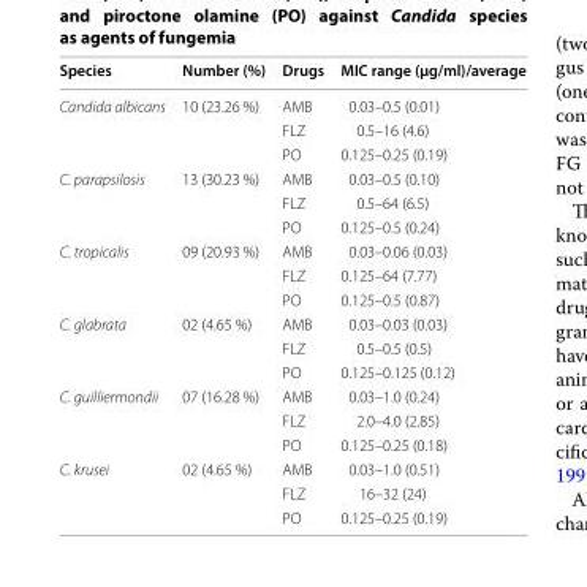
<table><thead><tr><td>Species</td><td>Number (%)</td><td>Drugs</td><td>MIC range (μg/ml)/average</td></tr></thead><tbody><tr><td rowspan="3">Candida albicans</td><td rowspan="3">10 (23.26 %)</td><td>AMB</td><td>0.03–0.5 (0.01)</td></tr><tr><td>FLZ</td><td>0.5–16 (4.6)</td></tr><tr><td>PO</td><td>0.125–0.25 (0.19)</td></tr><tr><td rowspan="3">C. parapsilosis</td><td rowspan="3">13 (30.23 %)</td><td>AMB</td><td>0.03–0.5 (0.10)</td></tr><tr><td>FLZ</td><td>0.5–64 (6.5)</td></tr><tr><td>PO</td><td>0.125–0.5 (0.24)</td></tr><tr><td rowspan="3">C. tropicalis</td><td rowspan="3">09 (20.93 %)</td><td>AMB</td><td>0.03–0.06 (0.03)</td></tr><tr><td>FLZ</td><td>0.125–64 (7.77)</td></tr><tr><td>PO</td><td>0.125–0.5 (0.87)</td></tr><tr><td rowspan="3">C. glabrata</td><td rowspan="3">02 (4.65 %)</td><td>AMB</td><td>0.03–0.03 (0.03)</td></tr><tr><td>FLZ</td><td>0.5–0.5 (0.5)</td></tr><tr><td>PO</td><td>0.125–0.125 (0.12)</td></tr><tr><td rowspan="3">C. guilliermondii</td><td rowspan="3">07 (16.28 %)</td><td>AMB</td><td>0.03–1.0 (0.24)</td></tr><tr><td>FLZ</td><td>2.0–4.0 (2.85)</td></tr><tr><td>PO</td><td>0.125–0.25 (0.18)</td></tr><tr><td rowspan="3">C. krusei</td><td rowspan="3">02 (4.65 %)</td><td>AMB</td><td>0.03–1.0 (0.51)</td></tr><tr><td>FLZ</td><td>16–32 (24)</td></tr><tr><td>PO</td><td>0.125–0.25 (0.19)</td></tr></tbody></table>